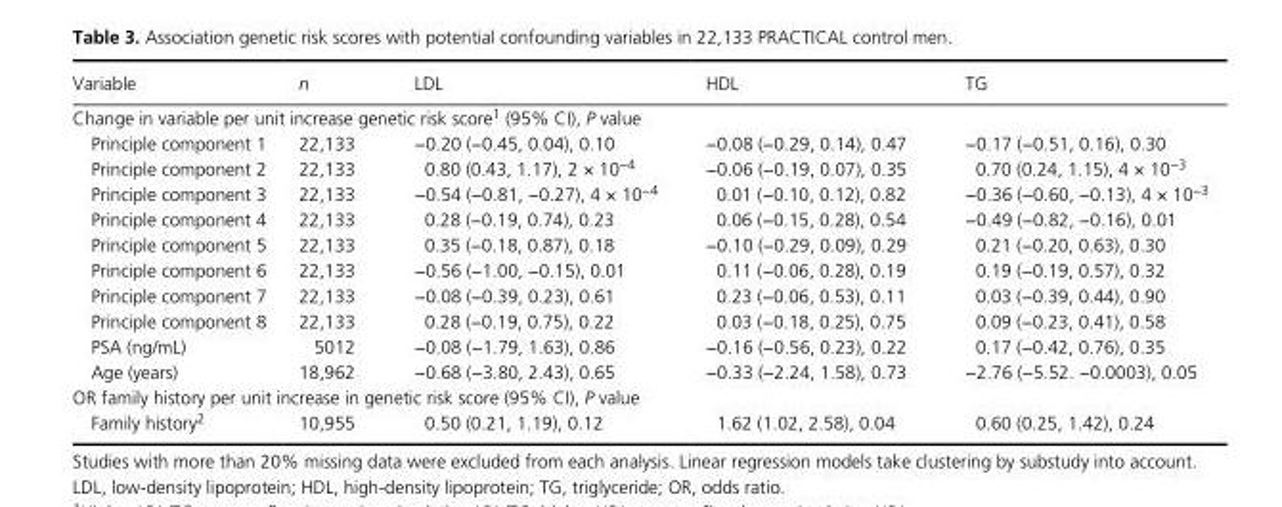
<table><thead><tr><td>Variable</td><td>n</td><td>LDL</td><td>HDL</td><td>TG</td></tr></thead><tbody><tr><td colspan="5">Change in variable per unit increase genetic risk score1 (95% CI), P value</td></tr><tr><td>Principle component 1</td><td>22,133</td><td>−0.20 (−0.45, 0.04), 0.10</td><td>−0.08 (−0.29, 0.14), 0.47</td><td>−0.17 (−0.51, 0.16), 0.30</td></tr><tr><td>Principle component 2</td><td>22,133</td><td>0.80 (0.43, 1.17), 2 × 10<sup>−4</sup></td><td>−0.06 (−0.19, 0.07), 0.35</td><td>0.70 (0.24, 1.15), 4 × 10<sup>−3</sup></td></tr><tr><td>Principle component 3</td><td>22,133</td><td>−0.54 (−0.81, −0.27), 4 × 10<sup>−4</sup></td><td>0.01 (−0.10, 0.12), 0.82</td><td>−0.36 (−0.60, −0.13), 4 × 10<sup>−3</sup></td></tr><tr><td>Principle component 4</td><td>22,133</td><td>0.28 (−0.19, 0.74), 0.23</td><td>0.06 (−0.15, 0.28), 0.54</td><td>−0.49 (−0.82, −0.16), 0.01</td></tr><tr><td>Principle component 5</td><td>22,133</td><td>0.35 (−0.18, 0.87), 0.18</td><td>−0.10 (−0.29, 0.09), 0.29</td><td>0.21 (−0.20, 0.63), 0.30</td></tr><tr><td>Principle component 6</td><td>22,133</td><td>−0.56 (−1.00, −0.15), 0.01</td><td>0.11 (−0.06, 0.28), 0.19</td><td>0.19 (−0.19, 0.57), 0.32</td></tr><tr><td>Principle component 7</td><td>22,133</td><td>−0.08 (−0.39, 0.23), 0.61</td><td>0.23 (−0.06, 0.53), 0.11</td><td>0.03 (−0.39, 0.44), 0.90</td></tr><tr><td>Principle component 8</td><td>22,133</td><td>0.28 (−0.19, 0.75), 0.22</td><td>0.03 (−0.18, 0.25), 0.75</td><td>0.09 (−0.23, 0.41), 0.58</td></tr><tr><td>PSA (ng/mL)</td><td>5012</td><td>−0.08 (−1.79, 1.63), 0.86</td><td>−0.16 (−0.56, 0.23), 0.22</td><td>0.17 (−0.42, 0.76), 0.35</td></tr><tr><td>Age (years)</td><td>18,962</td><td>−0.68 (−3.80, 2.43), 0.65</td><td>−0.33 (−2.24, 1.58), 0.73</td><td>−2.76 (−5.52. −0.0003), 0.05</td></tr><tr><td colspan="5">OR family history per unit increase in genetic risk score (95% CI), P value</td></tr><tr><td>Family history2</td><td>10,955</td><td>0.50 (0.21, 1.19), 0.12</td><td>1.62 (1.02, 2.58), 0.04</td><td>0.60 (0.25, 1.42), 0.24</td></tr></tbody></table>